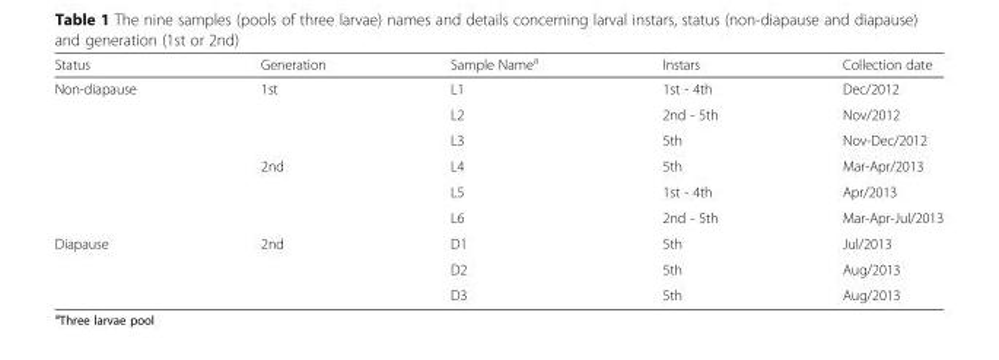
<table><thead><tr><td>Status</td><td>Generation</td><td>Sample Name<sup>a</sup></td><td>Instars</td><td>Collection date</td></tr></thead><tbody><tr><td rowspan="6">Non-diapause</td><td rowspan="3">1st</td><td>L1</td><td>1st - 4th</td><td>Dec/2012</td></tr><tr><td>L2</td><td>2nd - 5th</td><td>Nov/2012</td></tr><tr><td>L3</td><td>5th</td><td>Nov-Dec/2012</td></tr><tr><td rowspan="3">2nd</td><td>L4</td><td>5th</td><td>Mar-Apr/2013</td></tr><tr><td>L5</td><td>1st - 4th</td><td>Apr/2013</td></tr><tr><td>L6</td><td>2nd - 5th</td><td>Mar-Apr-Jul/2013</td></tr><tr><td rowspan="3">Diapause</td><td rowspan="3">2nd</td><td>D1</td><td>5th</td><td>Jul/2013</td></tr><tr><td>D2</td><td>5th</td><td>Aug/2013</td></tr><tr><td>D3</td><td>5th</td><td>Aug/2013</td></tr></tbody></table>